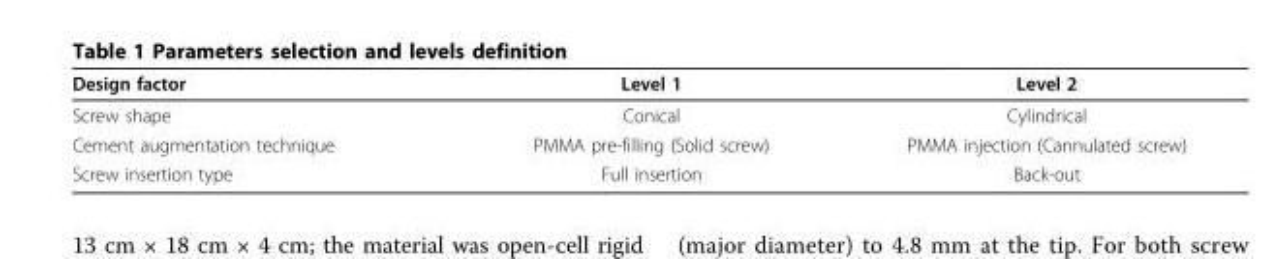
<table><thead><tr><td>Design factor</td><td>Level 1</td><td>Level 2</td></tr></thead><tbody><tr><td>Screw shape</td><td>Conical</td><td>Cylindrical</td></tr><tr><td>Cement augmentation technique</td><td>PMMA pre-filling (Solid screw)</td><td>PMMA injection (Cannulated screw)</td></tr><tr><td>Screw insertion type</td><td>Full insertion</td><td>Back-out</td></tr></tbody></table>